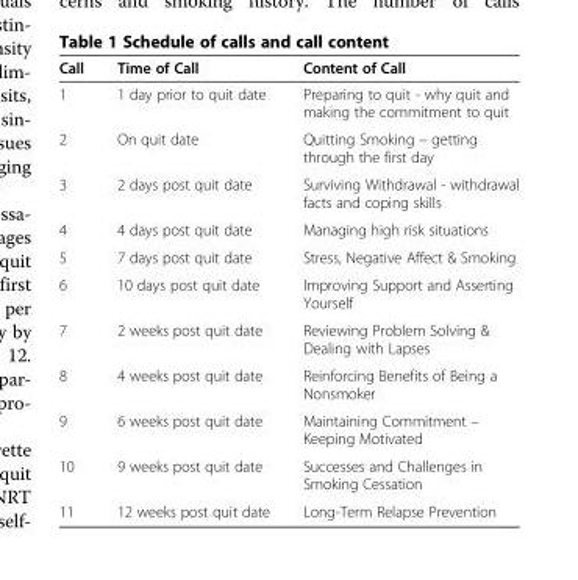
<table><thead><tr><td>Call</td><td>Time of Call</td><td>Content of Call</td></tr></thead><tbody><tr><td>1</td><td>1 day prior to quit date</td><td>Preparing to quit - why quit and making the commitment to quit</td></tr><tr><td>2</td><td>On quit date</td><td>Quitting Smoking – getting through the first day</td></tr><tr><td>3</td><td>2 days post quit date</td><td>Surviving Withdrawal - withdrawal facts and coping skills</td></tr><tr><td>4</td><td>4 days post quit date</td><td>Managing high risk situations</td></tr><tr><td>5</td><td>7 days post quit date</td><td>Stress, Negative Affect &amp; Smoking</td></tr><tr><td>6</td><td>10 days post quit date</td><td>Improving Support and Asserting Yourself</td></tr><tr><td>7</td><td>2 weeks post quit date</td><td>Reviewing Problem Solving &amp; Dealing with Lapses</td></tr><tr><td>8</td><td>4 weeks post quit date</td><td>Reinforcing Benefits of Being a Nonsmoker</td></tr><tr><td>9</td><td>6 weeks post quit date</td><td>Maintaining Commitment – Keeping Motivated</td></tr><tr><td>10</td><td>9 weeks post quit date</td><td>Successes and Challenges in Smoking Cessation</td></tr><tr><td>11</td><td>12 weeks post quit date</td><td>Long-Term Relapse Prevention</td></tr></tbody></table>